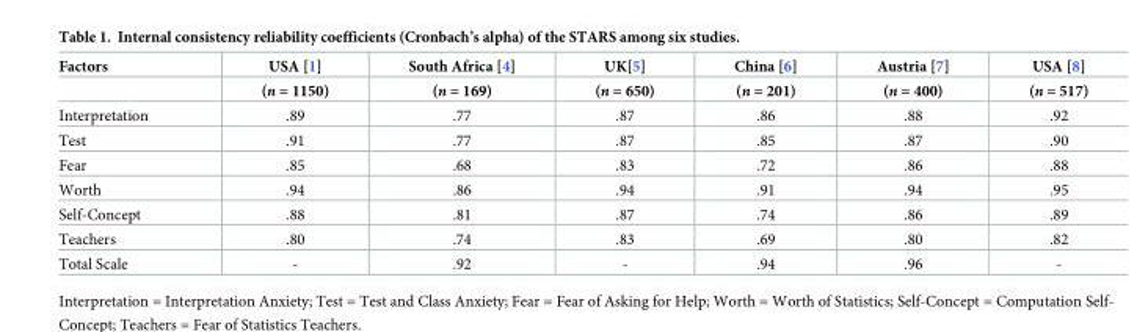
<table><thead><tr><td rowspan="2">Factors</td><td rowspan="2">USA [1] (n = 1150)</td><td rowspan="2">South Africa [4] (n = 169)</td><td rowspan="2">UK[5] (n = 650)</td><td rowspan="2">China [6] (n = 201)</td><td rowspan="2">Austria [7] (n = 400)</td><td rowspan="2">USA [8] (n = 517)</td></tr><tr></tr></thead><tbody><tr><td>Interpretation</td><td>.89</td><td>.77</td><td>.87</td><td>.86</td><td>.88</td><td>.92</td></tr><tr><td>Test</td><td>.91</td><td>.77</td><td>.87</td><td>.85</td><td>.87</td><td>.90</td></tr><tr><td>Fear</td><td>.85</td><td>.68</td><td>.83</td><td>.72</td><td>.86</td><td>.88</td></tr><tr><td>Worth</td><td>.94</td><td>.86</td><td>.94</td><td>.91</td><td>.94</td><td>.95</td></tr><tr><td>Self-Concept</td><td>.88</td><td>.81</td><td>.87</td><td>.74</td><td>.86</td><td>.89</td></tr><tr><td>Teachers</td><td>.80</td><td>.74</td><td>.83</td><td>.69</td><td>.80</td><td>.82</td></tr><tr><td>Total Scale</td><td>-</td><td>.92</td><td>-</td><td>.94</td><td>.96</td><td>-</td></tr></tbody></table>